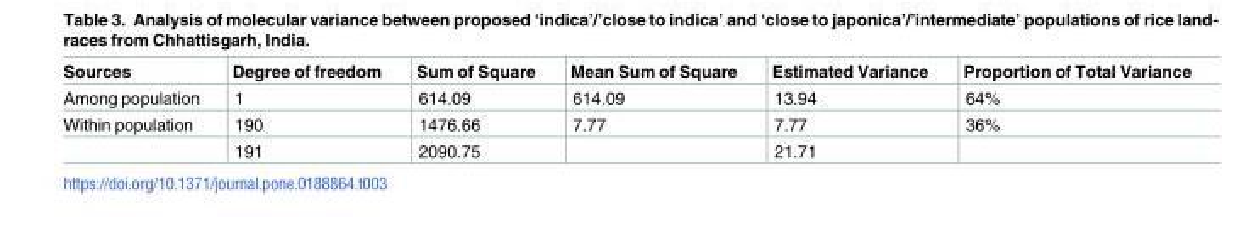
<table><thead><tr><td>Sources</td><td>Degree of freedom</td><td>Sum of Square</td><td>Mean Sum of Square</td><td>Estimated Variance</td><td>Proportion of Total Variance</td></tr></thead><tbody><tr><td>Among population</td><td>1</td><td>614.09</td><td>614.09</td><td>13.94</td><td>64%</td></tr><tr><td rowspan="2">Within population</td><td>190</td><td>1476.66</td><td>7.77</td><td>7.77</td><td>36%</td></tr><tr><td>191</td><td>2090.75</td><td></td><td>21.71</td><td></td></tr></tbody></table>